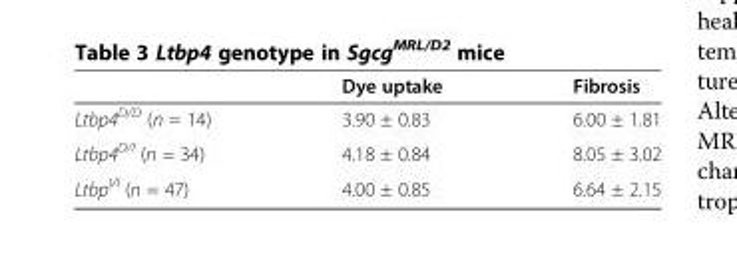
<table><thead><tr><td></td><td>Dye uptake</td><td>Fibrosis</td></tr></thead><tbody><tr><td>Ltbp4<sup>D/D</sup> (n = 14)</td><td>3.90 ± 0.83</td><td>6.00 ± 1.81</td></tr><tr><td>Ltbp4<sup>D/I</sup> (n = 34)</td><td>4.18 ± 0.84</td><td>8.05 ± 3.02</td></tr><tr><td>Ltbp<sup>I/I</sup> (n = 47)</td><td>4.00 ± 0.85</td><td>6.64 ± 2.15</td></tr></tbody></table>